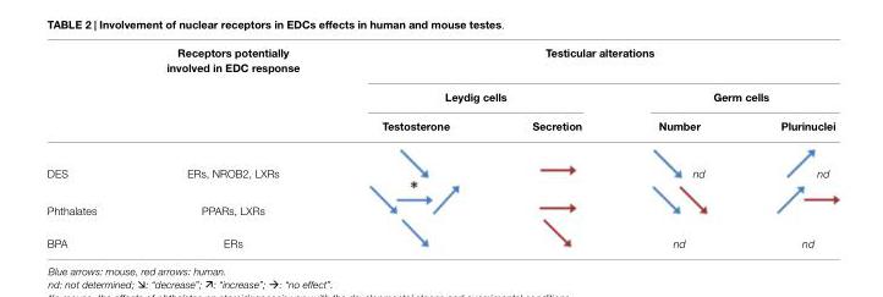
<table><thead><tr><td rowspan="3"></td><td rowspan="3">Receptors potentially involved in EDC response</td><td colspan="4">Testicular alterations</td></tr><tr><td colspan="2">Leydig cells</td><td colspan="2">Germ cells</td></tr><tr><td>Testosterone</td><td>Secretion</td><td>Number</td><td>Plurinuclei</td></tr></thead><tbody><tr><td>DES</td><td>ERs, NROB2, LXRs</td><td></td><td></td><td>nd</td><td>nd</td></tr><tr><td>Phthalates</td><td>PPARs, LXRs</td><td></td><td></td><td></td><td></td></tr><tr><td>BPA</td><td>ERs</td><td></td><td></td><td>nd</td><td>nd</td></tr></tbody></table>